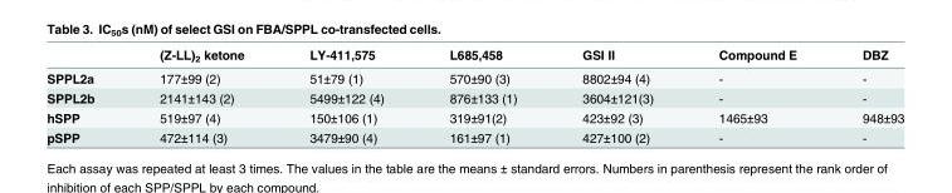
<table><thead><tr><td></td><td>(Z-LL)<sub>2</sub> ketone</td><td>LY-411,575</td><td>L685,458</td><td>GSI II</td><td>Compound E</td><td>DBZ</td></tr></thead><tbody><tr><td>SPPL2a</td><td>177±99 (2)</td><td>51±79 (1)</td><td>570±90 (3)</td><td>8802±94 (4)</td><td>-</td><td>-</td></tr><tr><td>SPPL2b</td><td>2141±143 (2)</td><td>5499±122 (4)</td><td>876±133 (1)</td><td>3604±121(3)</td><td>-</td><td>-</td></tr><tr><td>hSPP</td><td>519±97 (4)</td><td>150±106 (1)</td><td>319±91(2)</td><td>423±92 (3)</td><td>1465±93</td><td>948±93</td></tr><tr><td>pSPP</td><td>472±114 (3)</td><td>3479±90 (4)</td><td>161±97 (1)</td><td>427±100 (2)</td><td>-</td><td>-</td></tr></tbody></table>